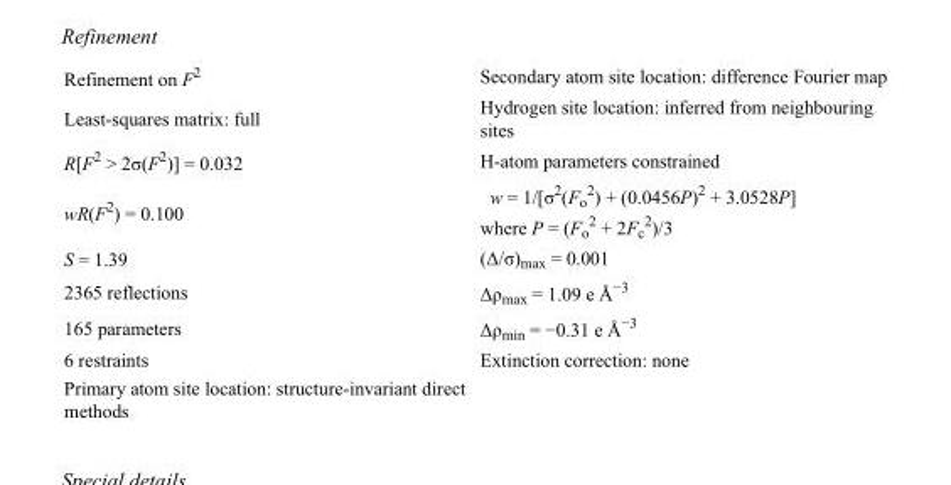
<table><tbody><tr><td>Refinement on F<sup>2</sup></td><td>Secondary atom site location: difference Fourier map</td></tr><tr><td>Least-squares matrix: full</td><td>Hydrogen site location: inferred from neighbouring sites</td></tr><tr><td>R[F<sup>2</sup> &gt; 2σ(F<sup>2</sup>)] = 0.032</td><td>H-atom parameters constrained</td></tr><tr><td>wR(F<sup>2</sup>) = 0.100</td><td>w = 1/[σ<sup>2</sup>(F<sub>o</sub> <sup>2</sup>) + (0.0456P)<sup>2</sup> + 3.0528P] where P = (F<sub>o</sub> <sup>2</sup> + 2F<sub>c</sub> <sup>2</sup>)/3</td></tr><tr><td>S = 1.39</td><td>(Δ/σ)<sub>max</sub> = 0.001</td></tr><tr><td>2365 reflections</td><td>Δρ<sub>max</sub> = 1.09 e Å<sup>−3</sup></td></tr><tr><td>165 parameters</td><td>Δρ<sub>min</sub> = −0.31 e Å<sup>−3</sup></td></tr><tr><td>6 restraints</td><td>Extinction correction: none</td></tr><tr><td>Primary atom site location: structure-invariant direct methods</td><td></td></tr></tbody></table>